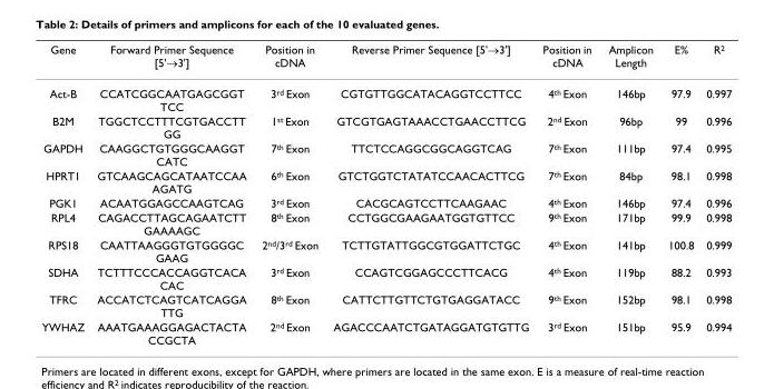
<table><thead><tr><td>Gene</td><td>Forward Primer Sequence [5&#x27;→3&#x27;]</td><td>Position in cDNA</td><td>Reverse Primer Sequence [5&#x27;→3&#x27;]</td><td>Position in cDNA</td><td>Amplicon Length</td><td>E%</td><td>R2</td></tr></thead><tbody><tr><td>Act-B</td><td>CCATCGGCAATGAGCGGT TCC</td><td>3rd Exon</td><td>CGTGTTGGCATACAGGTCCTTCC</td><td>4th Exon</td><td>146bp</td><td>97.9</td><td>0.997</td></tr><tr><td>B2M</td><td>TGGCTCCTTTCGTGACCTT GG</td><td>1st Exon</td><td>GTCGTGAGTAAACCTGAACCTTCG</td><td>2nd Exon</td><td>96bp</td><td>99</td><td>0.996</td></tr><tr><td>GAPDH</td><td>CAAGGCTGTGGGCAAGGT CATC</td><td>7th Exon</td><td>TTCTCCAGGCGGCAGGTCAG</td><td>7th Exon</td><td>111bp</td><td>97.4</td><td>0.995</td></tr><tr><td>HPRT1</td><td>GTCAAGCAGCATAATCCAA AGATG</td><td>6th Exon</td><td>GTCTGGTCTATATCCAACACTTCG</td><td>7th Exon</td><td>84bp</td><td>98.1</td><td>0.998</td></tr><tr><td>PGK1</td><td>ACAATGGAGCCAAGTCAG</td><td>3rd Exon</td><td>CACGCAGTCCTTCAAGAAC</td><td>4th Exon</td><td>146bp</td><td>97.4</td><td>0.996</td></tr><tr><td>RPL4</td><td>CAGACCTTAGCAGAATCTT GAAAAGC</td><td>8th Exon</td><td>CCTGGCGAAGAATGGTGTTCC</td><td>9th Exon</td><td>171bp</td><td>99.9</td><td>0.998</td></tr><tr><td>RPS18</td><td>CAATTAAGGGTGTGGGGC GAAG</td><td>2nd/3rd Exon</td><td>TCTTGTATTGGCGTGGATTCTGC</td><td>4th Exon</td><td>141bp</td><td>100.8</td><td>0.999</td></tr><tr><td>SDHA</td><td>TCTTTCCCACCAGGTCACA CAC</td><td>3rd Exon</td><td>CCAGTCGGAGCCCTTCACG</td><td>4th Exon</td><td>119bp</td><td>88.2</td><td>0.993</td></tr><tr><td>TFRC</td><td>ACCATCTCAGTCATCAGGA TTG</td><td>8th Exon</td><td>CATTCTTGTTCTGTGAGGATACC</td><td>9th Exon</td><td>152bp</td><td>98.1</td><td>0.998</td></tr><tr><td>YWHAZ</td><td>AAATGAAAGGAGACTACTA CCGCTA</td><td>2nd Exon</td><td>AGACCCAATCTGATAGGATGTGTTG</td><td>3rd Exon</td><td>151bp</td><td>95.9</td><td>0.994</td></tr></tbody></table>